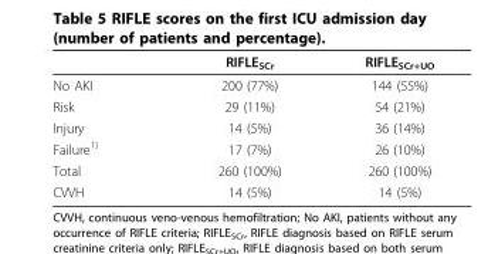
<table><thead><tr><td></td><td>RIFLE<sub>SCr</sub></td><td>RIFLE<sub>SCr+UO</sub></td></tr></thead><tbody><tr><td>No AKI</td><td>200 (77%)</td><td>144 (55%)</td></tr><tr><td>Risk</td><td>29 (11%)</td><td>54 (21%)</td></tr><tr><td>Injury</td><td>14 (5%)</td><td>36 (14%)</td></tr><tr><td>Failure<sup>1)</sup></td><td>17 (7%)</td><td>26 (10%)</td></tr><tr><td>Total</td><td>260 (100%)</td><td>260 (100%)</td></tr><tr><td>CVVH</td><td>14 (5%)</td><td>14 (5%)</td></tr></tbody></table>